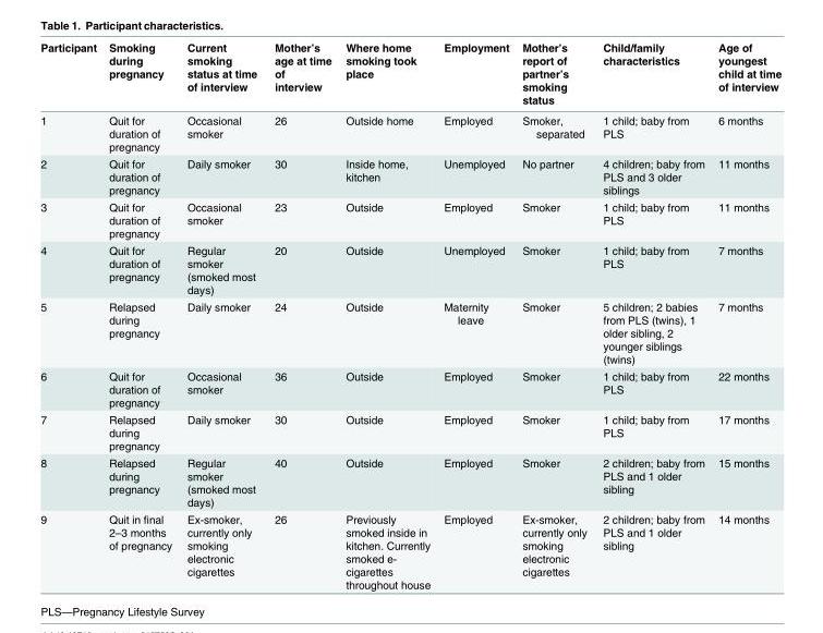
<table><thead><tr><td>Participant</td><td>Smoking during pregnancy</td><td>Current smoking status at time of interview</td><td>Mother’s age at time of interview</td><td>Where home smoking took place</td><td>Employment</td><td>Mother’s report of partner’s smoking status</td><td>Child/family characteristics</td><td>Age of youngest child at time of interview</td></tr></thead><tbody><tr><td>1</td><td>Quit for duration of pregnancy</td><td>Occasional smoker</td><td>26</td><td>Outside home</td><td>Employed</td><td>Smoker, separated</td><td>1 child; baby from PLS</td><td>6 months</td></tr><tr><td>2</td><td>Quit for duration of pregnancy</td><td>Daily smoker</td><td>30</td><td>Inside home, kitchen</td><td>Unemployed</td><td>No partner</td><td>4 children; baby from PLS and 3 older siblings</td><td>11 months</td></tr><tr><td>3</td><td>Quit for duration of pregnancy</td><td>Occasional smoker</td><td>23</td><td>Outside</td><td>Employed</td><td>Smoker</td><td>1 child; baby from PLS</td><td>11 months</td></tr><tr><td>4</td><td>Quit for duration of pregnancy</td><td>Regular smoker (smoked most days)</td><td>20</td><td>Outside</td><td>Unemployed</td><td>Smoker</td><td>1 child; baby from PLS</td><td>7 months</td></tr><tr><td>5</td><td>Relapsed during pregnancy</td><td>Daily smoker</td><td>24</td><td>Outside</td><td>Maternity leave</td><td>Smoker</td><td>5 children; 2 babies from PLS (twins), 1 older sibling, 2 younger siblings (twins)</td><td>7 months</td></tr><tr><td>6</td><td>Quit for duration of pregnancy</td><td>Occasional smoker</td><td>36</td><td>Outside</td><td>Employed</td><td>Smoker</td><td>1 child; baby from PLS</td><td>22 months</td></tr><tr><td>7</td><td>Relapsed during pregnancy</td><td>Daily smoker</td><td>30</td><td>Outside</td><td>Employed</td><td>Smoker</td><td>1 child; baby from PLS</td><td>17 months</td></tr><tr><td>8</td><td>Relapsed during pregnancy</td><td>Regular smoker (smoked most days)</td><td>40</td><td>Outside</td><td>Employed</td><td>Smoker</td><td>2 children; baby from PLS and 1 older sibling</td><td>15 months</td></tr><tr><td>9</td><td>Quit in final 2–3 months of pregnancy</td><td>Ex-smoker, currently only smoking electronic cigarettes</td><td>26</td><td>Previously smoked inside in kitchen. Currently smoked e- cigarettes throughout house</td><td>Employed</td><td>Ex-smoker, currently only smoking electronic cigarettes</td><td>2 children; baby from PLS and 1 older sibling</td><td>14 months</td></tr></tbody></table>